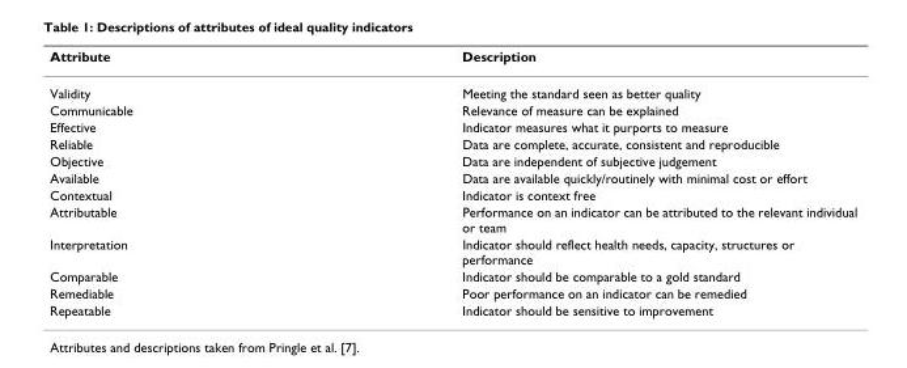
<table><thead><tr><td>Attribute</td><td>Description</td></tr></thead><tbody><tr><td>Validity</td><td>Meeting the standard seen as better quality</td></tr><tr><td>Communicable</td><td>Relevance of measure can be explained</td></tr><tr><td>Effective</td><td>Indicator measures what it purports to measure</td></tr><tr><td>Reliable</td><td>Data are complete, accurate, consistent and reproducible</td></tr><tr><td>Objective</td><td>Data are independent of subjective judgement</td></tr><tr><td>Available</td><td>Data are available quickly/routinely with minimal cost or effort</td></tr><tr><td>Contextual</td><td>Indicator is context free</td></tr><tr><td>Attributable</td><td>Performance on an indicator can be attributed to the relevant individual or team</td></tr><tr><td>Interpretation</td><td>Indicator should reflect health needs, capacity, structures or performance</td></tr><tr><td>Comparable</td><td>Indicator should be comparable to a gold standard</td></tr><tr><td>Remediable</td><td>Poor performance on an indicator can be remedied</td></tr><tr><td>Repeatable</td><td>Indicator should be sensitive to improvement</td></tr></tbody></table>